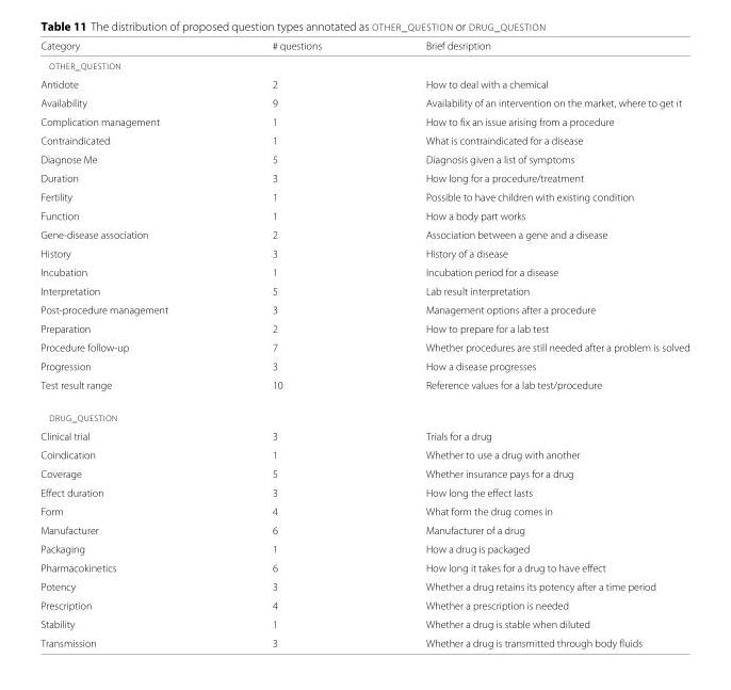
<table><thead><tr><td>Category</td><td># questions</td><td>Brief desription</td></tr></thead><tbody><tr><td colspan="3">OTHER_QUESTION</td></tr><tr><td>Antidote</td><td>2</td><td>How to deal with a chemical</td></tr><tr><td>Availability</td><td>9</td><td>Availability of an intervention on the market, where to get it</td></tr><tr><td>Complication management</td><td>1</td><td>How to fix an issue arising from a procedure</td></tr><tr><td>Contraindicated</td><td>1</td><td>What is contraindicated for a disease</td></tr><tr><td>Diagnose Me</td><td>5</td><td>Diagnosis given a list of symptoms</td></tr><tr><td>Duration</td><td>3</td><td>How long for a procedure/treatment</td></tr><tr><td>Fertility</td><td>1</td><td>Possible to have children with existing condition</td></tr><tr><td>Function</td><td>1</td><td>How a body part works</td></tr><tr><td>Gene-disease association</td><td>2</td><td>Association between a gene and a disease</td></tr><tr><td>History</td><td>3</td><td>History of a disease</td></tr><tr><td>Incubation</td><td>1</td><td>Incubation period for a disease</td></tr><tr><td>Interpretation</td><td>5</td><td>Lab result interpretation</td></tr><tr><td>Post-procedure management</td><td>3</td><td>Management options after a procedure</td></tr><tr><td>Preparation</td><td>2</td><td>How to prepare for a lab test</td></tr><tr><td>Procedure follow-up</td><td>7</td><td>Whether procedures are still needed after a problem is solved</td></tr><tr><td>Progression</td><td>3</td><td>How a disease progresses</td></tr><tr><td>Test result range</td><td>10</td><td>Reference values for a lab test/procedure</td></tr><tr><td colspan="3">DRUG_QUESTION</td></tr><tr><td>Clinical trial</td><td>3</td><td>Trials for a drug</td></tr><tr><td>Coindication</td><td>1</td><td>Whether to use a drug with another</td></tr><tr><td>Coverage</td><td>5</td><td>Whether insurance pays for a drug</td></tr><tr><td>Effect duration</td><td>3</td><td>How long the effect lasts</td></tr><tr><td>Form</td><td>4</td><td>What form the drug comes in</td></tr><tr><td>Manufacturer</td><td>6</td><td>Manufacturer of a drug</td></tr><tr><td>Packaging</td><td>1</td><td>How a drug is packaged</td></tr><tr><td>Pharmacokinetics</td><td>6</td><td>How long it takes for a drug to have effect</td></tr><tr><td>Potency</td><td>3</td><td>Whether a drug retains its potency after a time period</td></tr><tr><td>Prescription</td><td>4</td><td>Whether a prescription is needed</td></tr><tr><td>Stability</td><td>1</td><td>Whether a drug is stable when diluted</td></tr><tr><td>Transmission</td><td>3</td><td>Whether a drug is transmitted through body fluids</td></tr></tbody></table>